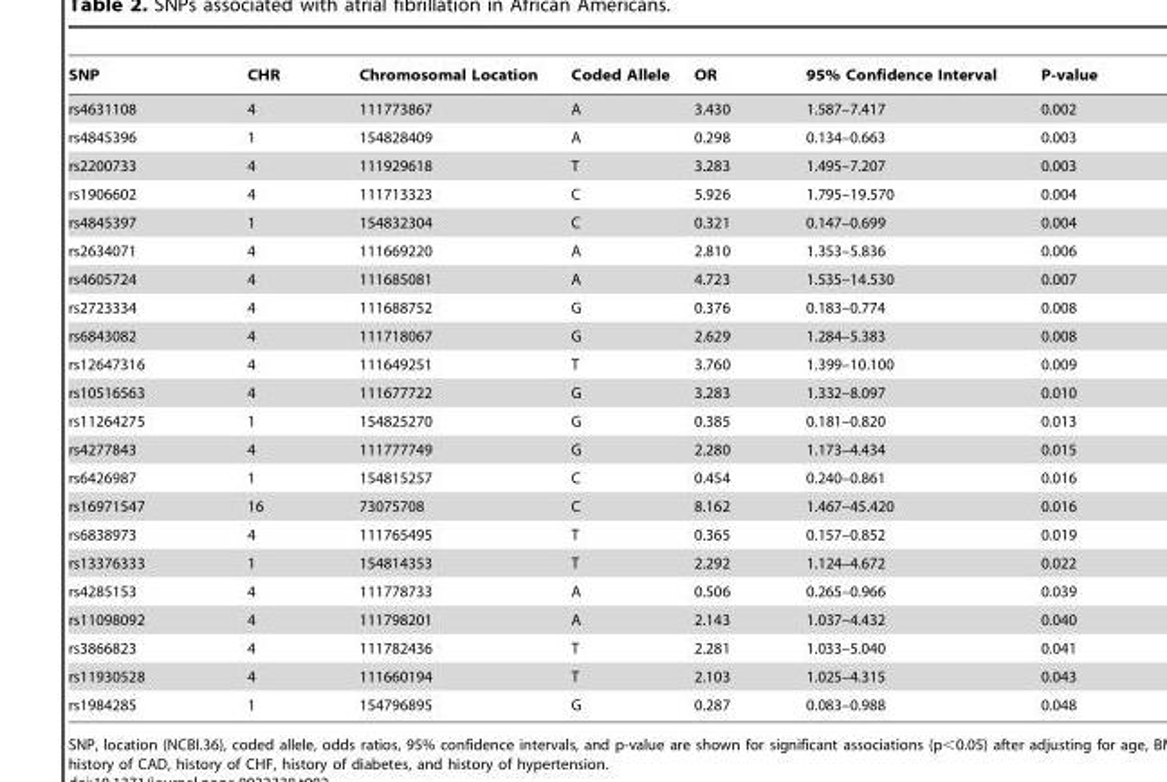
<table><thead><tr><td>SNP</td><td>CHR</td><td>Chromosomal Location</td><td>Coded Allele</td><td>OR</td><td>95% Confidence Interval</td><td>P-value</td></tr></thead><tbody><tr><td>rs4631108</td><td>4</td><td>111773867</td><td>A</td><td>3.430</td><td>1.587–7.417</td><td>0.002</td></tr><tr><td>rs4845396</td><td>1</td><td>154828409</td><td>A</td><td>0.298</td><td>0.134–0.663</td><td>0.003</td></tr><tr><td>rs2200733</td><td>4</td><td>111929618</td><td>T</td><td>3.283</td><td>1.495–7.207</td><td>0.003</td></tr><tr><td>rs1906602</td><td>4</td><td>111713323</td><td>C</td><td>5.926</td><td>1.795–19.570</td><td>0.004</td></tr><tr><td>rs4845397</td><td>1</td><td>154832304</td><td>C</td><td>0.321</td><td>0.147–0.699</td><td>0.004</td></tr><tr><td>rs2634071</td><td>4</td><td>111669220</td><td>A</td><td>2.810</td><td>1.353–5.836</td><td>0.006</td></tr><tr><td>rs4605724</td><td>4</td><td>111685081</td><td>A</td><td>4.723</td><td>1.535–14.530</td><td>0.007</td></tr><tr><td>rs2723334</td><td>4</td><td>111688752</td><td>G</td><td>0.376</td><td>0.183–0.774</td><td>0.008</td></tr><tr><td>rs6843082</td><td>4</td><td>111718067</td><td>G</td><td>2.629</td><td>1.284–5.383</td><td>0.008</td></tr><tr><td>rs12647316</td><td>4</td><td>111649251</td><td>T</td><td>3.760</td><td>1.399–10.100</td><td>0.009</td></tr><tr><td>rs10516563</td><td>4</td><td>111677722</td><td>G</td><td>3.283</td><td>1.332–8.097</td><td>0.010</td></tr><tr><td>rs11264275</td><td>1</td><td>154825270</td><td>G</td><td>0.385</td><td>0.181–0.820</td><td>0.013</td></tr><tr><td>rs4277843</td><td>4</td><td>111777749</td><td>G</td><td>2.280</td><td>1.173–4.434</td><td>0.015</td></tr><tr><td>rs6426987</td><td>1</td><td>154815257</td><td>C</td><td>0.454</td><td>0.240–0.861</td><td>0.016</td></tr><tr><td>rs16971547</td><td>16</td><td>73075708</td><td>C</td><td>8.162</td><td>1.467–45.420</td><td>0.016</td></tr><tr><td>rs6838973</td><td>4</td><td>111765495</td><td>T</td><td>0.365</td><td>0.157–0.852</td><td>0.019</td></tr><tr><td>rs13376333</td><td>1</td><td>154814353</td><td>T</td><td>2.292</td><td>1.124–4.672</td><td>0.022</td></tr><tr><td>rs4285153</td><td>4</td><td>111778733</td><td>A</td><td>0.506</td><td>0.265–0.966</td><td>0.039</td></tr><tr><td>rs11098092</td><td>4</td><td>111798201</td><td>A</td><td>2.143</td><td>1.037–4.432</td><td>0.040</td></tr><tr><td>rs3866823</td><td>4</td><td>111782436</td><td>T</td><td>2.281</td><td>1.033–5.040</td><td>0.041</td></tr><tr><td>rs11930528</td><td>4</td><td>111660194</td><td>T</td><td>2.103</td><td>1.025–4.315</td><td>0.043</td></tr><tr><td>rs1984285</td><td>1</td><td>154796895</td><td>G</td><td>0.287</td><td>0.083–0.988</td><td>0.048</td></tr></tbody></table>